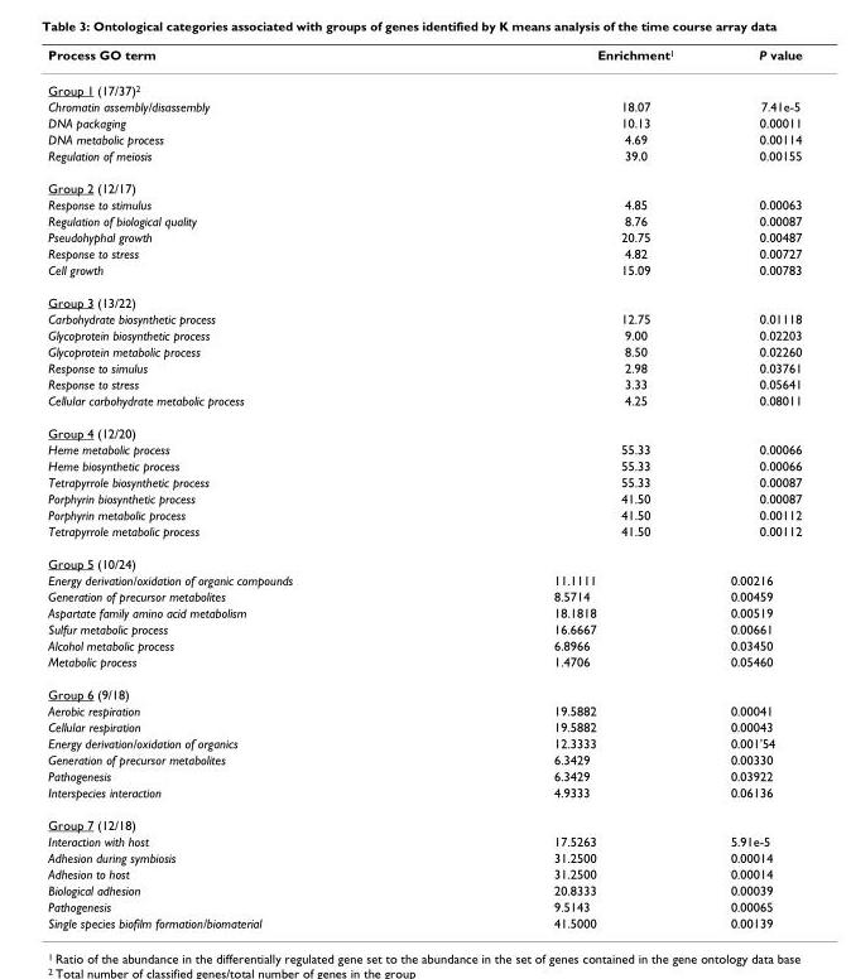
<table><thead><tr><td>Process GO term</td><td>Enrichment<sup>1</sup></td><td>P value</td></tr></thead><tbody><tr><td colspan="3">Group 1 (17/37)<sup>2</sup></td></tr><tr><td>Chromatin assembly/disassembly</td><td>18.07</td><td>7.41e-5</td></tr><tr><td>DNA packaging</td><td>10.13</td><td>0.00011</td></tr><tr><td>DNA metabolic process</td><td>4.69</td><td>0.00114</td></tr><tr><td>Regulation of meiosis</td><td>39.0</td><td>0.00155</td></tr><tr><td colspan="3">Group 2 (12/17)</td></tr><tr><td>Response to stimulus</td><td>4.85</td><td>0.00063</td></tr><tr><td>Regulation of biological quality</td><td>8.76</td><td>0.00087</td></tr><tr><td>Pseudohyphal growth</td><td>20.75</td><td>0.00487</td></tr><tr><td>Response to stress</td><td>4.82</td><td>0.00727</td></tr><tr><td>Cell growth</td><td>15.09</td><td>0.00783</td></tr><tr><td colspan="3">Group 3 (13/22)</td></tr><tr><td>Carbohydrate biosynthetic process</td><td>12.75</td><td>0.01118</td></tr><tr><td>Glycoprotein biosynthetic process</td><td>9.00</td><td>0.02203</td></tr><tr><td>Glycoprotein metabolic process</td><td>8.50</td><td>0.02260</td></tr><tr><td>Response to simulus</td><td>2.98</td><td>0.03761</td></tr><tr><td>Response to stress</td><td>3.33</td><td>0.05641</td></tr><tr><td>Cellular carbohydrate metabolic process</td><td>4.25</td><td>0.08011</td></tr><tr><td colspan="3">Group 4 (12/20)</td></tr><tr><td>Heme metabolic process</td><td>55.33</td><td>0.00066</td></tr><tr><td>Heme biosynthetic process</td><td>55.33</td><td>0.00066</td></tr><tr><td>Tetrapyrrole biosynthetic process</td><td>55.33</td><td>0.00087</td></tr><tr><td>Porphyrin biosynthetic process</td><td>41.50</td><td>0.00087</td></tr><tr><td>Porphyrin metabolic process</td><td>41.50</td><td>0.00112</td></tr><tr><td>Tetrapyrrole metabolic process</td><td>41.50</td><td>0.00112</td></tr><tr><td colspan="3">Group 5 (10/24)</td></tr><tr><td>Energy derivation/oxidation of organic compounds</td><td>11.1111</td><td>0.00216</td></tr><tr><td>Generation of precursor metabolites</td><td>8.5714</td><td>0.00459</td></tr><tr><td>Aspartate family amino acid metabolism</td><td>18.1818</td><td>0.00519</td></tr><tr><td>Sulfur metabolic process</td><td>16.6667</td><td>0.00661</td></tr><tr><td>Alcohol metabolic process</td><td>6.8966</td><td>0.03450</td></tr><tr><td>Metabolic process</td><td>1.4706</td><td>0.05460</td></tr><tr><td colspan="3">Group 6 (9/18)</td></tr><tr><td>Aerobic respiration</td><td>19.5882</td><td>0.00041</td></tr><tr><td>Cellular respiration</td><td>19.5882</td><td>0.00043</td></tr><tr><td>Energy derivation/oxidation of organics</td><td>12.3333</td><td>0.001&#x27;54</td></tr><tr><td>Generation of precursor metabolites</td><td>6.3429</td><td>0.00330</td></tr><tr><td>Pathogenesis</td><td>6.3429</td><td>0.03922</td></tr><tr><td>Interspecies interaction</td><td>4.9333</td><td>0.06136</td></tr><tr><td colspan="3">Group 7 (12/18)</td></tr><tr><td>Interaction with host</td><td>17.5263</td><td>5.91e-5</td></tr><tr><td>Adhesion during symbiosis</td><td>31.2500</td><td>0.00014</td></tr><tr><td>Adhesion to host</td><td>31.2500</td><td>0.00014</td></tr><tr><td>Biological adhesion</td><td>20.8333</td><td>0.00039</td></tr><tr><td>Pathogenesis</td><td>9.5143</td><td>0.00065</td></tr><tr><td>Single species biofilm formation/biomaterial</td><td>41.5000</td><td>0.00139</td></tr></tbody></table>